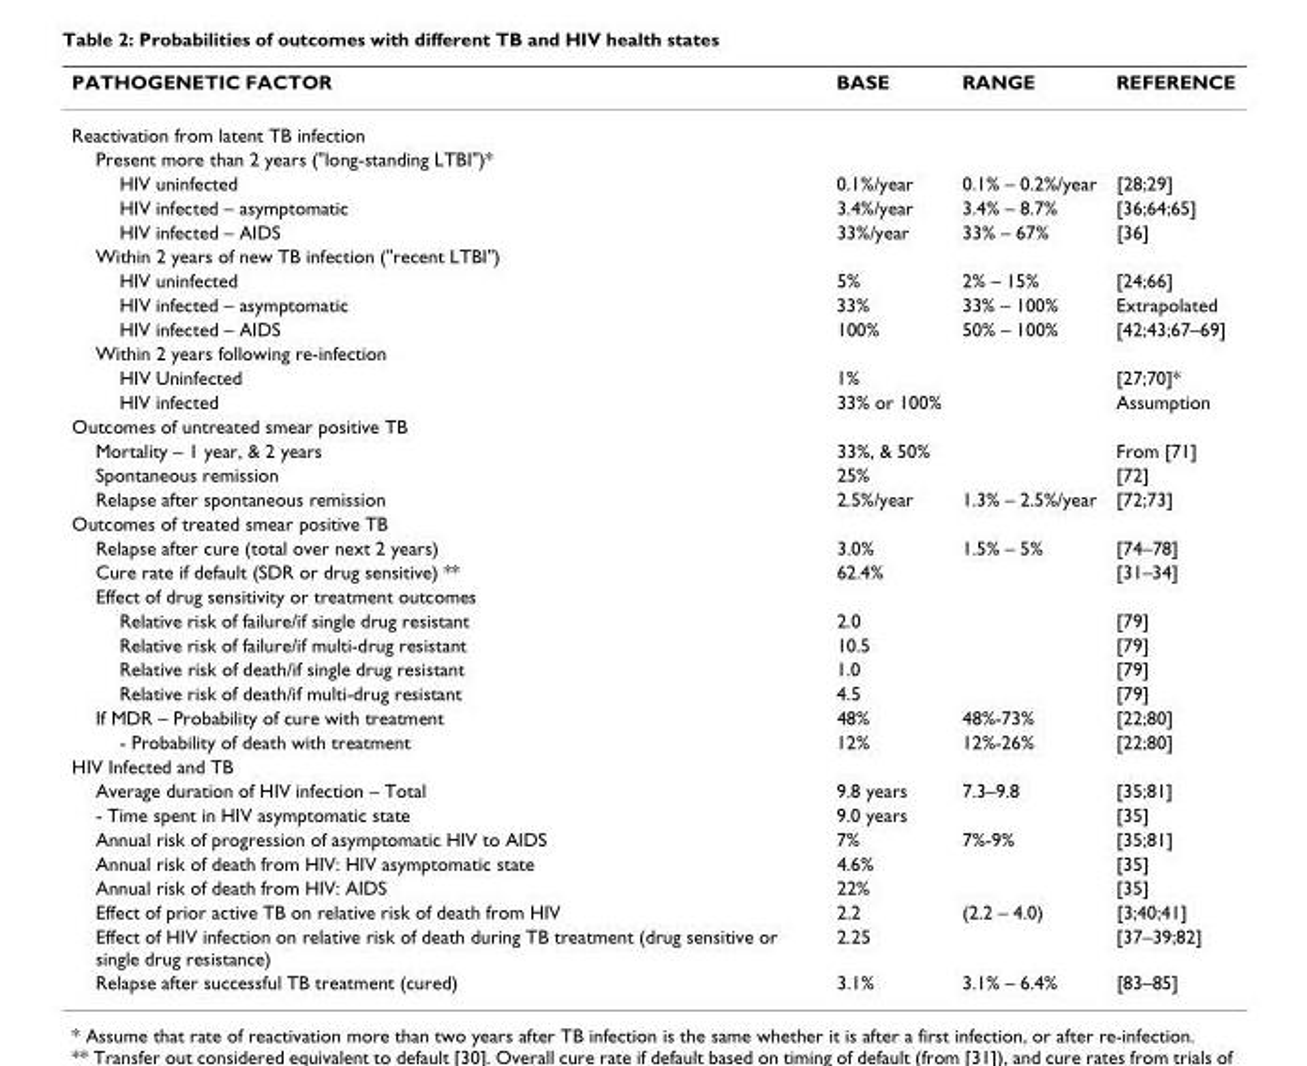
<table><thead><tr><td>PATHOGENETIC FACTOR</td><td>BASE</td><td>RANGE</td><td>REFERENCE</td></tr></thead><tbody><tr><td colspan="4">Reactivation from latent TB infection</td></tr><tr><td colspan="4">Present more than 2 years (&quot;long-standing LTBI&quot;)*</td></tr><tr><td>HIV uninfected</td><td>0.1%/year</td><td>0.1% – 0.2%/year</td><td>[28;29]</td></tr><tr><td>HIV infected – asymptomatic</td><td>3.4%/year</td><td>3.4% – 8.7%</td><td>[36;64;65]</td></tr><tr><td>HIV infected – AIDS</td><td>33%/year</td><td>33% – 67%</td><td>[36]</td></tr><tr><td colspan="4">Within 2 years of new TB infection (&quot;recent LTBI&quot;)</td></tr><tr><td>HIV uninfected</td><td>5%</td><td>2% – 15%</td><td>[24;66]</td></tr><tr><td>HIV infected – asymptomatic</td><td>33%</td><td>33% – 100%</td><td>Extrapolated</td></tr><tr><td>HIV infected – AIDS</td><td>100%</td><td>50% – 100%</td><td>[42;43;67–69]</td></tr><tr><td colspan="4">Within 2 years following re-infection</td></tr><tr><td>HIV Uninfected</td><td>1%</td><td></td><td>[27;70]*</td></tr><tr><td>HIV infected</td><td>33% or 100%</td><td></td><td>Assumption</td></tr><tr><td colspan="4">Outcomes of untreated smear positive TB</td></tr><tr><td>Mortality – 1 year, &amp; 2 years</td><td>33%, &amp; 50%</td><td></td><td>From [71]</td></tr><tr><td>Spontaneous remission</td><td>25%</td><td></td><td>[72]</td></tr><tr><td>Relapse after spontaneous remission</td><td>2.5%/year</td><td>1.3% – 2.5%/year</td><td>[72;73]</td></tr><tr><td colspan="4">Outcomes of treated smear positive TB</td></tr><tr><td>Relapse after cure (total over next 2 years)</td><td>3.0%</td><td>1.5% – 5%</td><td>[74–78]</td></tr><tr><td>Cure rate if default (SDR or drug sensitive) **</td><td>62.4%</td><td></td><td>[31–34]</td></tr><tr><td colspan="4">Effect of drug sensitivity or treatment outcomes</td></tr><tr><td>Relative risk of failure/if single drug resistant</td><td>2.0</td><td></td><td>[79]</td></tr><tr><td>Relative risk of failure/if multi-drug resistant</td><td>10.5</td><td></td><td>[79]</td></tr><tr><td>Relative risk of death/if single drug resistant</td><td>1.0</td><td></td><td>[79]</td></tr><tr><td>Relative risk of death/if multi-drug resistant</td><td>4.5</td><td></td><td>[79]</td></tr><tr><td>If MDR – Probability of cure with treatment</td><td>48%</td><td>48%-73%</td><td>[22;80]</td></tr><tr><td>- Probability of death with treatment</td><td>12%</td><td>12%-26%</td><td>[22;80]</td></tr><tr><td colspan="4">HIV Infected and TB</td></tr><tr><td>Average duration of HIV infection – Total</td><td>9.8 years</td><td>7.3–9.8</td><td>[35;81]</td></tr><tr><td>- Time spent in HIV asymptomatic state</td><td>9.0 years</td><td></td><td>[35]</td></tr><tr><td>Annual risk of progression of asymptomatic HIV to AIDS</td><td>7%</td><td>7%-9%</td><td>[35;81]</td></tr><tr><td>Annual risk of death from HIV: HIV asymptomatic state</td><td>4.6%</td><td></td><td>[35]</td></tr><tr><td>Annual risk of death from HIV: AIDS</td><td>22%</td><td></td><td>[35]</td></tr><tr><td>Effect of prior active TB on relative risk of death from HIV</td><td>2.2</td><td>(2.2 – 4.0)</td><td>[3;40;41]</td></tr><tr><td>Effect of HIV infection on relative risk of death during TB treatment (drug sensitive or single drug resistance)</td><td>2.25</td><td></td><td>[37–39;82]</td></tr><tr><td>Relapse after successful TB treatment (cured)</td><td>3.1%</td><td>3.1% – 6.4%</td><td>[83–85]</td></tr></tbody></table>